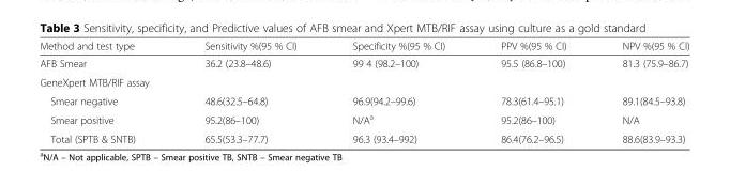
<table><thead><tr><td>Method and test type</td><td>Sensitivity %(95 % CI)</td><td>Specificity %(95 % CI)</td><td>PPV %(95 % CI)</td><td>NPV %(95 % CI)</td></tr></thead><tbody><tr><td>AFB Smear</td><td>36.2 (23.8–48.6)</td><td>99 4 (98.2–100)</td><td>95.5 (86.8–100)</td><td>81.3 (75.9–86.7)</td></tr><tr><td colspan="5">GeneXpert MTB/RIF assay</td></tr><tr><td>Smear negative</td><td>48.6(32.5–64.8)</td><td>96.9(94.2–99.6)</td><td>78.3(61.4–95.1)</td><td>89.1(84.5–93.8)</td></tr><tr><td>Smear positive</td><td>95.2(86–100)</td><td>N/A<sup>a</sup></td><td>95.2(86–100)</td><td>N/A</td></tr><tr><td>Total (SPTB &amp; SNTB)</td><td>65.5(53.3–77.7)</td><td>96.3 (93.4–992)</td><td>86.4(76.2–96.5)</td><td>88.6(83.9–93.3)</td></tr></tbody></table>